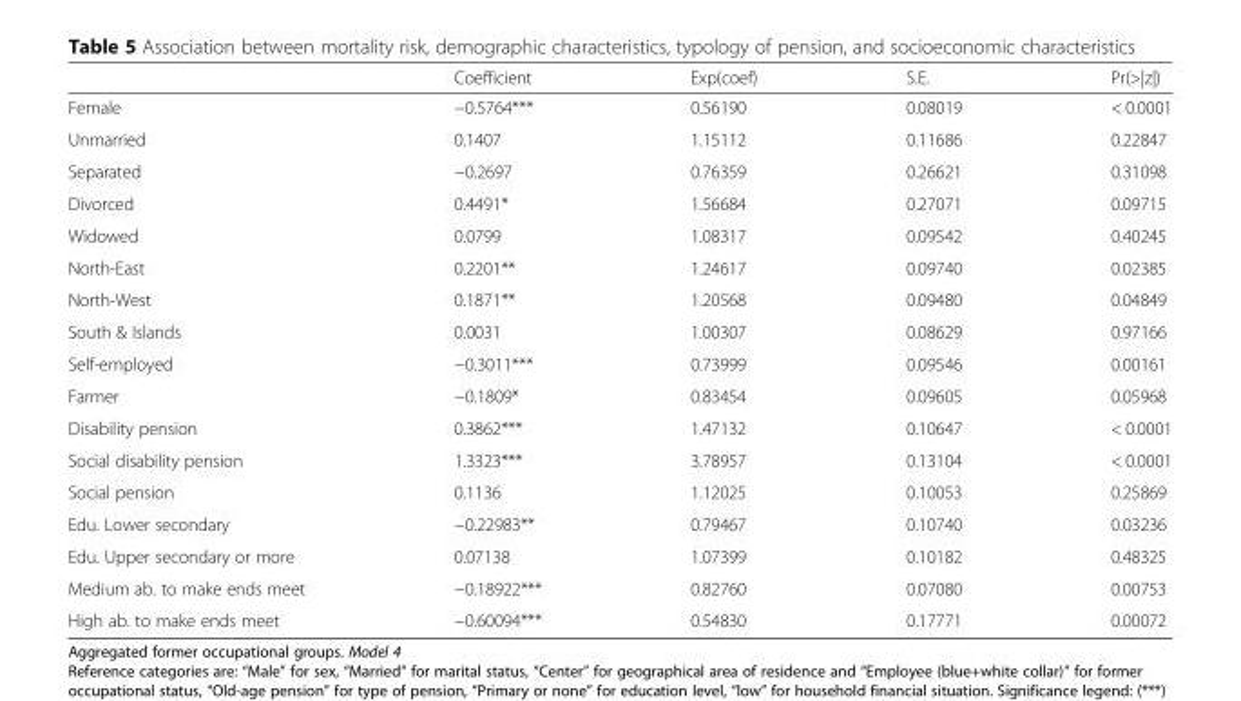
<table><thead><tr><td></td><td>Coefficient</td><td>Exp(coef)</td><td>S.E.</td><td>Pr(&gt;|z|)</td></tr></thead><tbody><tr><td>Female</td><td>−0.5764***</td><td>0.56190</td><td>0.08019</td><td>&lt; 0.0001</td></tr><tr><td>Unmarried</td><td>0.1407</td><td>1.15112</td><td>0.11686</td><td>0.22847</td></tr><tr><td>Separated</td><td>−0.2697</td><td>0.76359</td><td>0.26621</td><td>0.31098</td></tr><tr><td>Divorced</td><td>0.4491*</td><td>1.56684</td><td>0.27071</td><td>0.09715</td></tr><tr><td>Widowed</td><td>0.0799</td><td>1.08317</td><td>0.09542</td><td>0.40245</td></tr><tr><td>North-East</td><td>0.2201**</td><td>1.24617</td><td>0.09740</td><td>0.02385</td></tr><tr><td>North-West</td><td>0.1871**</td><td>1.20568</td><td>0.09480</td><td>0.04849</td></tr><tr><td>South &amp; Islands</td><td>0.0031</td><td>1.00307</td><td>0.08629</td><td>0.97166</td></tr><tr><td>Self-employed</td><td>−0.3011***</td><td>0.73999</td><td>0.09546</td><td>0.00161</td></tr><tr><td>Farmer</td><td>−0.1809*</td><td>0.83454</td><td>0.09605</td><td>0.05968</td></tr><tr><td>Disability pension</td><td>0.3862***</td><td>1.47132</td><td>0.10647</td><td>&lt; 0.0001</td></tr><tr><td>Social disability pension</td><td>1.3323***</td><td>3.78957</td><td>0.13104</td><td>&lt; 0.0001</td></tr><tr><td>Social pension</td><td>0.1136</td><td>1.12025</td><td>0.10053</td><td>0.25869</td></tr><tr><td>Edu. Lower secondary</td><td>−0.22983**</td><td>0.79467</td><td>0.10740</td><td>0.03236</td></tr><tr><td>Edu. Upper secondary or more</td><td>0.07138</td><td>1.07399</td><td>0.10182</td><td>0.48325</td></tr><tr><td>Medium ab. to make ends meet</td><td>−0.18922***</td><td>0.82760</td><td>0.07080</td><td>0.00753</td></tr><tr><td>High ab. to make ends meet</td><td>−0.60094***</td><td>0.54830</td><td>0.17771</td><td>0.00072</td></tr></tbody></table>